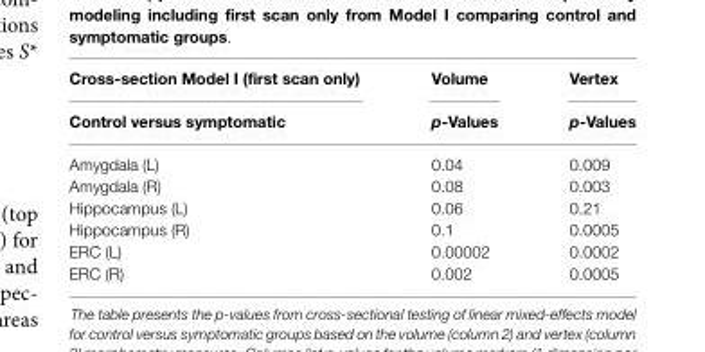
<table><thead><tr><td rowspan="2">Cross-section Model I (first scan only) Control versus symptomatic</td><td rowspan="2">Volume p-Values</td><td rowspan="2">Vertex p-Values</td></tr><tr></tr></thead><tbody><tr><td>Amygdala (L)</td><td>0.04</td><td>0.009</td></tr><tr><td>Amygdala (R)</td><td>0.08</td><td>0.003</td></tr><tr><td>Hippocampus (L)</td><td>0.06</td><td>0.21</td></tr><tr><td>Hippocampus (R)</td><td>0.1</td><td>0.0005</td></tr><tr><td>ERC (L)</td><td>0.00002</td><td>0.0002</td></tr><tr><td>ERC (R)</td><td>0.002</td><td>0.0005</td></tr></tbody></table>